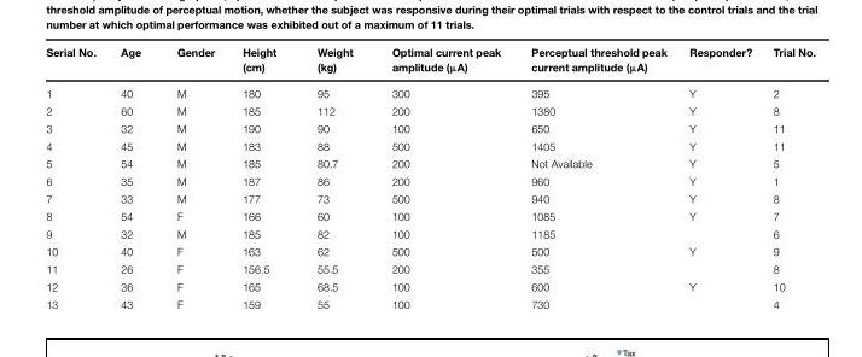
<table><thead><tr><td>Serial No.</td><td>Age</td><td>Gender</td><td>Height (cm)</td><td>Weight (kg)</td><td>Optimal current peak amplitude (µA)</td><td>Perceptual threshold peak current amplitude (µA)</td><td>Responder?</td><td>Trial No.</td></tr></thead><tbody><tr><td>1</td><td>40</td><td>M</td><td>180</td><td>95</td><td>300</td><td>395</td><td>Y</td><td>2</td></tr><tr><td>2</td><td>60</td><td>M</td><td>185</td><td>112</td><td>200</td><td>1380</td><td>Y</td><td>8</td></tr><tr><td>3</td><td>32</td><td>M</td><td>190</td><td>90</td><td>100</td><td>650</td><td>Y</td><td>11</td></tr><tr><td>4</td><td>45</td><td>M</td><td>183</td><td>88</td><td>500</td><td>1405</td><td>Y</td><td>11</td></tr><tr><td>5</td><td>54</td><td>M</td><td>185</td><td>80.7</td><td>200</td><td>Not Available</td><td>Y</td><td>5</td></tr><tr><td>6</td><td>35</td><td>M</td><td>187</td><td>86</td><td>200</td><td>960</td><td>Y</td><td>1</td></tr><tr><td>7</td><td>33</td><td>M</td><td>177</td><td>73</td><td>500</td><td>940</td><td>Y</td><td>8</td></tr><tr><td>8</td><td>54</td><td>F</td><td>166</td><td>60</td><td>100</td><td>1085</td><td>Y</td><td>7</td></tr><tr><td>9</td><td>32</td><td>M</td><td>185</td><td>82</td><td>100</td><td>1185</td><td></td><td>6</td></tr><tr><td>10</td><td>40</td><td>F</td><td>163</td><td>62</td><td>500</td><td>500</td><td>Y</td><td>9</td></tr><tr><td>11</td><td>26</td><td>F</td><td>156.5</td><td>55.5</td><td>200</td><td>355</td><td></td><td>8</td></tr><tr><td>12</td><td>36</td><td>F</td><td>165</td><td>68.5</td><td>100</td><td>600</td><td>Y</td><td>10</td></tr><tr><td>13</td><td>43</td><td>F</td><td>159</td><td>55</td><td>100</td><td>730</td><td></td><td>4</td></tr></tbody></table>